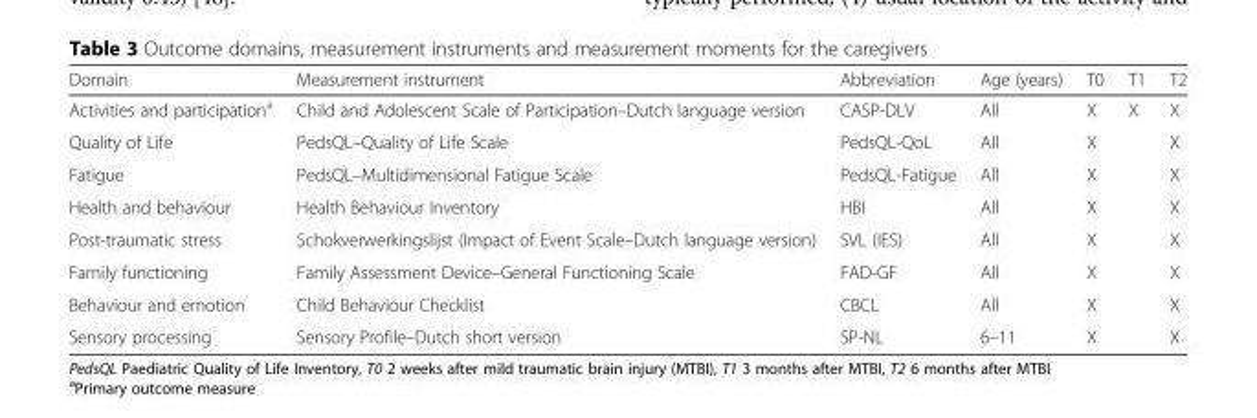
<table><thead><tr><td>Domain</td><td>Measurement instrument</td><td>Abbreviation</td><td>Age (years)</td><td>T0</td><td>T1</td><td>T2</td></tr></thead><tbody><tr><td>Activities and participation<sup>a</sup></td><td>Child and Adolescent Scale of Participation–Dutch language version</td><td>CASP-DLV</td><td>All</td><td>X</td><td>X</td><td>X</td></tr><tr><td>Quality of Life</td><td>PedsQL–Quality of Life Scale</td><td>PedsQL-QoL</td><td>All</td><td>X</td><td></td><td>X</td></tr><tr><td>Fatigue</td><td>PedsQL–Multidimensional Fatigue Scale</td><td>PedsQL-Fatigue</td><td>All</td><td>X</td><td></td><td>X</td></tr><tr><td>Health and behaviour</td><td>Health Behaviour Inventory</td><td>HBI</td><td>All</td><td>X</td><td></td><td>X</td></tr><tr><td>Post-traumatic stress</td><td>Schokverwerkingslijst (Impact of Event Scale–Dutch language version)</td><td>SVL (IES)</td><td>All</td><td>X</td><td></td><td>X</td></tr><tr><td>Family functioning</td><td>Family Assessment Device–General Functioning Scale</td><td>FAD-GF</td><td>All</td><td>X</td><td></td><td>X</td></tr><tr><td>Behaviour and emotion</td><td>Child Behaviour Checklist</td><td>CBCL</td><td>All</td><td>X</td><td></td><td>X</td></tr><tr><td>Sensory processing</td><td>Sensory Profile–Dutch short version</td><td>SP-NL</td><td>6–11</td><td>X</td><td></td><td>X</td></tr></tbody></table>